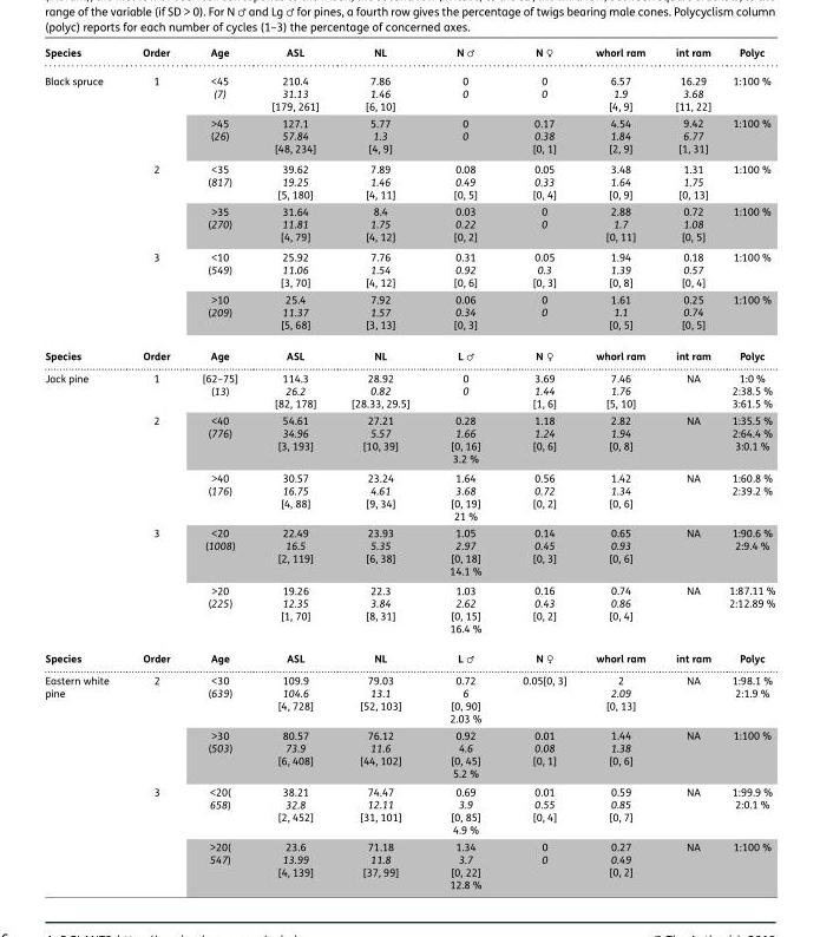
<table><thead><tr><td>Species</td><td>Order</td><td>Age</td><td>ASL</td><td>NL</td><td>N ♂</td><td>N ♀</td><td>whorl ram</td><td>int ram</td><td>Polyc</td></tr></thead><tbody><tr><td rowspan="6">Black spruce</td><td rowspan="2">1</td><td>&lt;45 (7)</td><td>210.4 31.13 [179, 261]</td><td>7.86 1.46 [6, 10]</td><td>0 0</td><td>0 0</td><td>6.57 1.9 [4, 9]</td><td>16.29 3.68 [11, 22]</td><td>1:100 %</td></tr><tr><td>&gt;45 (26)</td><td>127.1 57.84 [48, 234]</td><td>5.77 1.3 [4, 9]</td><td>0 0</td><td>0.17 0.38 [0, 1]</td><td>4.54 1.84 [2, 9]</td><td>9.42 6.77 [1, 31]</td><td>1:100 %</td></tr><tr><td rowspan="2">2</td><td>&lt;35 (817)</td><td>39.62 19.25 [5, 180]</td><td>7.89 1.46 [4, 11]</td><td>0.08 0.49 [0, 5]</td><td>0.05 0.33 [0, 4]</td><td>3.48 1.64 [0, 9]</td><td>1.31 1.75 [0, 13]</td><td>1:100 %</td></tr><tr><td>&gt;35 (270)</td><td>31.64 11.81 [4, 79]</td><td>8.4 1.75 [4, 12]</td><td>0.03 0.22 [0, 2]</td><td>0 0</td><td>2.88 1.7 [0, 11]</td><td>0.72 1.08 [0, 5]</td><td>1:100 %</td></tr><tr><td rowspan="2">3</td><td>&lt;10 (549)</td><td>25.92 11.06 [3, 70]</td><td>7.76 1.54 [4, 12]</td><td>0.31 0.92 [0, 6]</td><td>0.05 0.3 [0, 3]</td><td>1.94 1.39 [0, 8]</td><td>0.18 0.57 [0, 4]</td><td>1:100 %</td></tr><tr><td>&gt;10 (209)</td><td>25.4 11.37 [5, 68]</td><td>7.92 1.57 [3, 13]</td><td>0.06 0.34 [0, 3]</td><td>0 0</td><td>1.61 1.1 [0, 5]</td><td>0.25 0.74 [0, 5]</td><td>1:100 %</td></tr><tr><td>Species</td><td>Order</td><td>Age</td><td>ASL</td><td>NL</td><td>L ♂</td><td>N ♀</td><td>whorl ram</td><td>int ram</td><td>Polyc</td></tr><tr><td rowspan="5">Jack pine</td><td>1</td><td>[62–75] (13)</td><td>114.3 26.2 [82, 178]</td><td>28.92 0.82 [28.33, 29.5]</td><td>0 0</td><td>3.69 1.44 [1, 6]</td><td>7.46 1.76 [5, 10]</td><td>NA</td><td>1:0 % 2:38.5 % 3:61.5 %</td></tr><tr><td rowspan="2">2</td><td>&lt;40 (776)</td><td>54.61 34.96 [3, 193]</td><td>27.21 5.57 [10, 39]</td><td>0.28 1.66 [0, 16] 3.2 %</td><td>1.18 1.24 [0, 6]</td><td>2.82 1.94 [0, 8]</td><td>NA</td><td>1:35.5 % 2:64.4 % 3:0.1 %</td></tr><tr><td>&gt;40 (176)</td><td>30.57 16.75 [4, 88]</td><td>23.24 4.61 [9, 34]</td><td>1.64 3.68 [0, 19] 21 %</td><td>0.56 0.72 [0, 2]</td><td>1.42 1.34 [0, 6]</td><td>NA</td><td>1:60.8 % 2:39.2 %</td></tr><tr><td rowspan="2">3</td><td>&lt;20 (1008)</td><td>22.49 16.5 [2, 119]</td><td>23.93 5.35 [6, 38]</td><td>1.05 2.97 [0, 18] 14.1 %</td><td>0.14 0.45 [0, 3]</td><td>0.65 0.93 [0, 6]</td><td>NA</td><td>1:90.6 % 2:9.4 %</td></tr><tr><td>&gt;20 (225)</td><td>19.26 12.35 [1, 70]</td><td>22.3 3.84 [8, 31]</td><td>1.03 2.62 [0, 15] 16.4 %</td><td>0.16 0.43 [0, 2]</td><td>0.74 0.86 [0, 4]</td><td>NA</td><td>1:87.11 % 2:12.89 %</td></tr><tr><td>Species</td><td>Order</td><td>Age</td><td>ASL</td><td>NL</td><td>L ♂</td><td>N ♀</td><td>whorl ram</td><td>int ram</td><td>Polyc</td></tr><tr><td rowspan="4">Eastern white pine</td><td rowspan="2">2</td><td>&lt;30 (639)</td><td>109.9 104.6 [4, 728]</td><td>79.03 13.1 [52, 103]</td><td>0.72 6 [0, 90] 2.03 %</td><td>0.05[0, 3]</td><td>2 2.09 [0, 13]</td><td>NA</td><td>1:98.1 % 2:1.9 %</td></tr><tr><td>&gt;30 (503)</td><td>80.57 73.9 [6, 408]</td><td>76.12 11.6 [44, 102]</td><td>0.92 4.6 [0, 45] 5.2 %</td><td>0.01 0.08 [0, 1]</td><td>1.44 1.38 [0, 6]</td><td>NA</td><td>1:100 %</td></tr><tr><td rowspan="2">3</td><td>&lt;20( 658)</td><td>38.21 32.8 [2, 452]</td><td>74.47 12.11 [31, 101]</td><td>0.69 3.9 [0, 85] 4.9 %</td><td>0.01 0.55 [0, 4]</td><td>0.59 0.85 [0, 7]</td><td>NA</td><td>1:99.9 % 2:0.1 %</td></tr><tr><td>&gt;20( 547)</td><td>23.6 13.99 [4, 139]</td><td>71.18 11.8 [37, 99]</td><td>1.34 3.7 [0, 22] 12.8 %</td><td>0 0</td><td>0.27 0.49 [0, 2]</td><td>NA</td><td>1:100 %</td></tr></tbody></table>